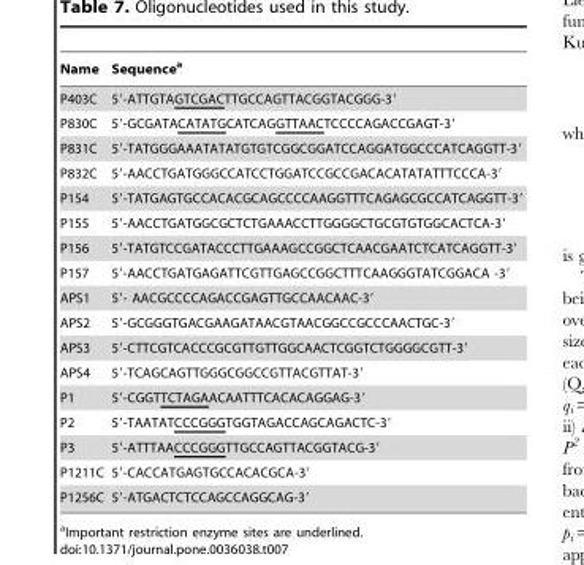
<table><thead><tr><td>Name</td><td>Sequence<sup>a</sup></td></tr></thead><tbody><tr><td>P403C</td><td>5′-ATTGTAGTCGACTTGCCAGTTACGGTACGGG-3′</td></tr><tr><td>P830C</td><td>5′-GCGATACATATGCATCAGGTTAACTCCCCAGACCGAGT-3′</td></tr><tr><td>P831C</td><td>5′-TATGGGAAATATATGTGTCGGCGGATCCAGGATGGCCCATCAGGTT-3′</td></tr><tr><td>P832C</td><td>5′-AACCTGATGGGCCATCCTGGATCCGCCGACACATATATTTCCCA-3′</td></tr><tr><td>P154</td><td>5′-TATGAGTGCCACACGCAGCCCCAAGGTTTCAGAGCGCCATCAGGTT-3′</td></tr><tr><td>P155</td><td>5′-AACCTGATGGCGCTCTGAAACCTTGGGGCTGCGTGTGGCACTCA-3′</td></tr><tr><td>P156</td><td>5′-TATGTCCGATACCCTTGAAAGCCGGCTCAACGAATCTCATCAGGTT-3′</td></tr><tr><td>P157</td><td>5′-AACCTGATGAGATTCGTTGAGCCGGCTTTCAAGGGTATCGGACA -3′</td></tr><tr><td>APS1</td><td>5′- AACGCCCCAGACCGAGTTGCCAACAAC-3′</td></tr><tr><td>APS2</td><td>5′-GCGGGTGACGAAGATAACGTAACGGCCGCCCAACTGC-3′</td></tr><tr><td>APS3</td><td>5′-CTTCGTCACCCGCGTTGTTGGCAACTCGGTCTGGGGCGTT-3′</td></tr><tr><td>APS4</td><td>5′-TCAGCAGTTGGGCGGCCGTTACGTTAT-3′</td></tr><tr><td>P1</td><td>5′-CGGTTCTAGAACAATTTCACACAGGAG-3′</td></tr><tr><td>P2</td><td>5′-TAATATCCCGGGTGGTAGACCAGCAGACTC-3′</td></tr><tr><td>P3</td><td>5′-ATTTAACCCGGGTTGCCAGTTACGGTACG-3′</td></tr><tr><td>P1211C</td><td>5′-CACCATGAGTGCCACACGCA-3′</td></tr><tr><td>P1256C</td><td>5′-ATGACTCTCCAGCCAGGCAG-3′</td></tr></tbody></table>